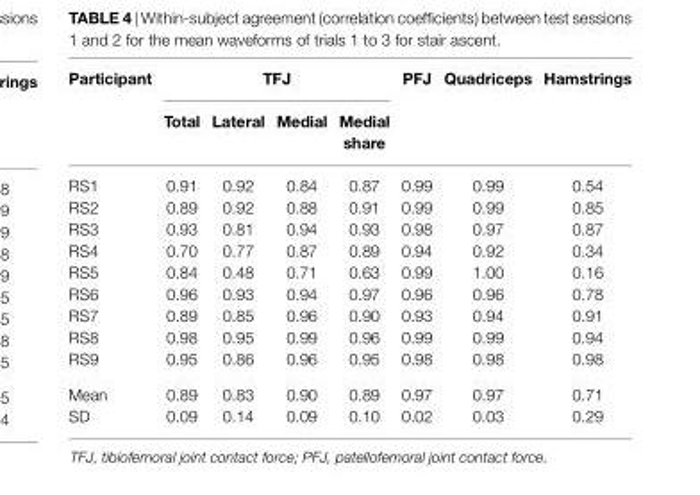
<table><thead><tr><td rowspan="2">Participant</td><td colspan="4">TFJ</td><td rowspan="2">PFJ</td><td rowspan="2">Quadriceps</td><td rowspan="2">Hamstrings</td></tr><tr><td>Total</td><td>Lateral</td><td>Medial</td><td>Medial share</td></tr></thead><tbody><tr><td>RS1</td><td>0.91</td><td>0.92</td><td>0.84</td><td>0.87</td><td>0.99</td><td>0.99</td><td>0.54</td></tr><tr><td>RS2</td><td>0.89</td><td>0.92</td><td>0.88</td><td>0.91</td><td>0.99</td><td>0.99</td><td>0.85</td></tr><tr><td>RS3</td><td>0.93</td><td>0.81</td><td>0.94</td><td>0.93</td><td>0.98</td><td>0.97</td><td>0.87</td></tr><tr><td>RS4</td><td>0.70</td><td>0.77</td><td>0.87</td><td>0.89</td><td>0.94</td><td>0.92</td><td>0.34</td></tr><tr><td>RS5</td><td>0.84</td><td>0.48</td><td>0.71</td><td>0.63</td><td>0.99</td><td>1.00</td><td>0.16</td></tr><tr><td>RS6</td><td>0.96</td><td>0.93</td><td>0.94</td><td>0.97</td><td>0.96</td><td>0.96</td><td>0.78</td></tr><tr><td>RS7</td><td>0.89</td><td>0.85</td><td>0.96</td><td>0.90</td><td>0.93</td><td>0.94</td><td>0.91</td></tr><tr><td>RS8</td><td>0.98</td><td>0.95</td><td>0.99</td><td>0.96</td><td>0.99</td><td>0.99</td><td>0.94</td></tr><tr><td>RS9</td><td>0.95</td><td>0.86</td><td>0.96</td><td>0.95</td><td>0.98</td><td>0.98</td><td>0.98</td></tr><tr><td>Mean</td><td>0.89</td><td>0.83</td><td>0.90</td><td>0.89</td><td>0.97</td><td>0.97</td><td>0.71</td></tr><tr><td>SD</td><td>0.09</td><td>0.14</td><td>0.09</td><td>0.10</td><td>0.02</td><td>0.03</td><td>0.29</td></tr></tbody></table>